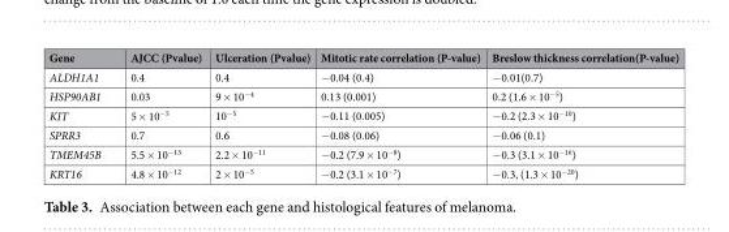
<table><thead><tr><td>Gene</td><td>AJCC (Pvalue)</td><td>Ulceration (Pvalue)</td><td>Mitotic rate correlation (P-value)</td><td>Breslow thickness correlation(P-value)</td></tr></thead><tbody><tr><td>ALDH1A1</td><td>0.4</td><td>0.4</td><td>−0.04 (0.4)</td><td>−0.01(0.7)</td></tr><tr><td>HSP90AB1</td><td>0.03</td><td>9 × 10<sup>−4</sup></td><td>0.13 (0.001)</td><td>0.2 (1.6 × 10<sup>−5</sup>)</td></tr><tr><td>KIT</td><td>5 × 10<sup>−5</sup></td><td>10<sup>−5</sup></td><td>−0.11 (0.005)</td><td>−0.2 (2.3 × 10<sup>−10</sup>)</td></tr><tr><td>SPRR3</td><td>0.7</td><td>0.6</td><td>−0.08 (0.06)</td><td>−0.06 (0.1)</td></tr><tr><td>TMEM45B</td><td>5.5 × 10<sup>−13</sup></td><td>2.2 × 10<sup>−11</sup></td><td>−0.2 (7.9 × 10<sup>−8</sup>)</td><td>−0.3 (3.1 × 10<sup>−16</sup>)</td></tr><tr><td>KRT16</td><td>4.8 × 10<sup>−12</sup></td><td>2 × 10<sup>−5</sup></td><td>−0.2 (3.1 × 10<sup>−7</sup>)</td><td>−0.3, (1.3 × 10<sup>−20</sup>)</td></tr></tbody></table>